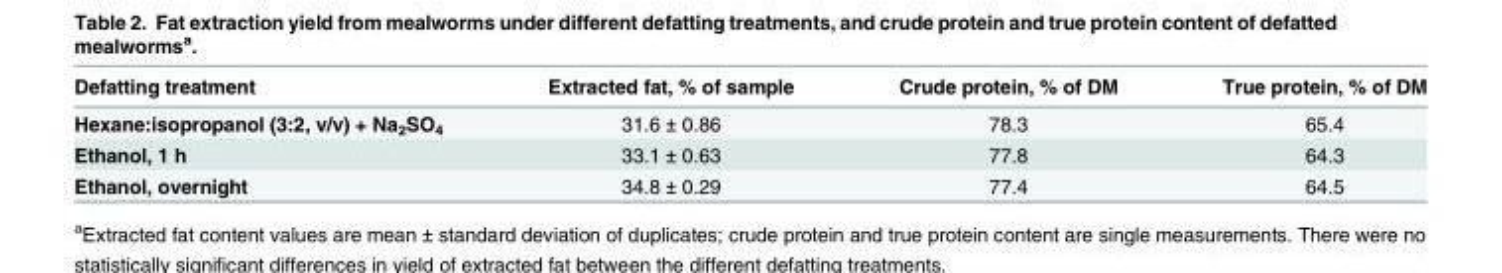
<table><thead><tr><td>Defatting treatment</td><td>Extracted fat, % of sample</td><td>Crude protein, % of DM</td><td>True protein, % of DM</td></tr></thead><tbody><tr><td>Hexane:isopropanol (3:2, v/v) + Na<sub>2</sub>SO<sub>4</sub></td><td>31.6 ± 0.86</td><td>78.3</td><td>65.4</td></tr><tr><td>Ethanol, 1 h</td><td>33.1 ± 0.63</td><td>77.8</td><td>64.3</td></tr><tr><td>Ethanol, overnight</td><td>34.8 ± 0.29</td><td>77.4</td><td>64.5</td></tr></tbody></table>